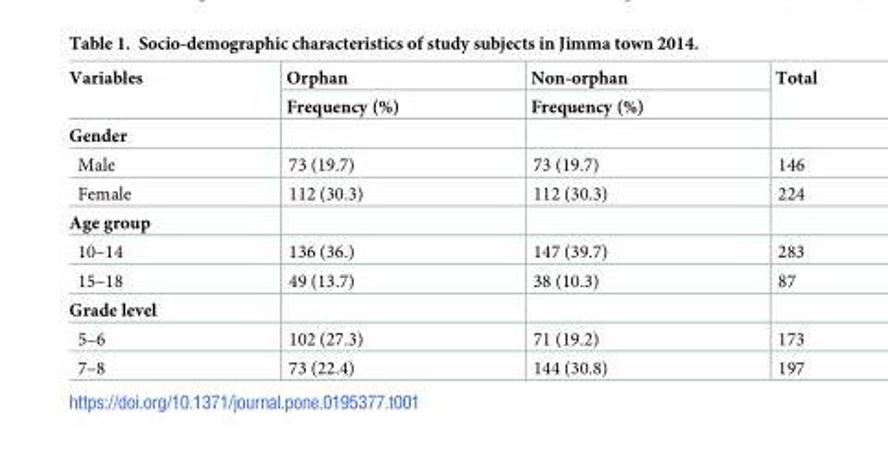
<table><thead><tr><td rowspan="2">Variables</td><td rowspan="2">Orphan Frequency (%)</td><td rowspan="2">Non-orphan Frequency (%)</td><td rowspan="2">Total</td></tr><tr></tr></thead><tbody><tr><td colspan="4">Gender</td></tr><tr><td>Male</td><td>73 (19.7)</td><td>73 (19.7)</td><td>146</td></tr><tr><td>Female</td><td>112 (30.3)</td><td>112 (30.3)</td><td>224</td></tr><tr><td colspan="4">Age group</td></tr><tr><td>10–14</td><td>136 (36.)</td><td>147 (39.7)</td><td>283</td></tr><tr><td>15–18</td><td>49 (13.7)</td><td>38 (10.3)</td><td>87</td></tr><tr><td colspan="4">Grade level</td></tr><tr><td>5–6</td><td>102 (27.3)</td><td>71 (19.2)</td><td>173</td></tr><tr><td>7–8</td><td>73 (22.4)</td><td>144 (30.8)</td><td>197</td></tr></tbody></table>